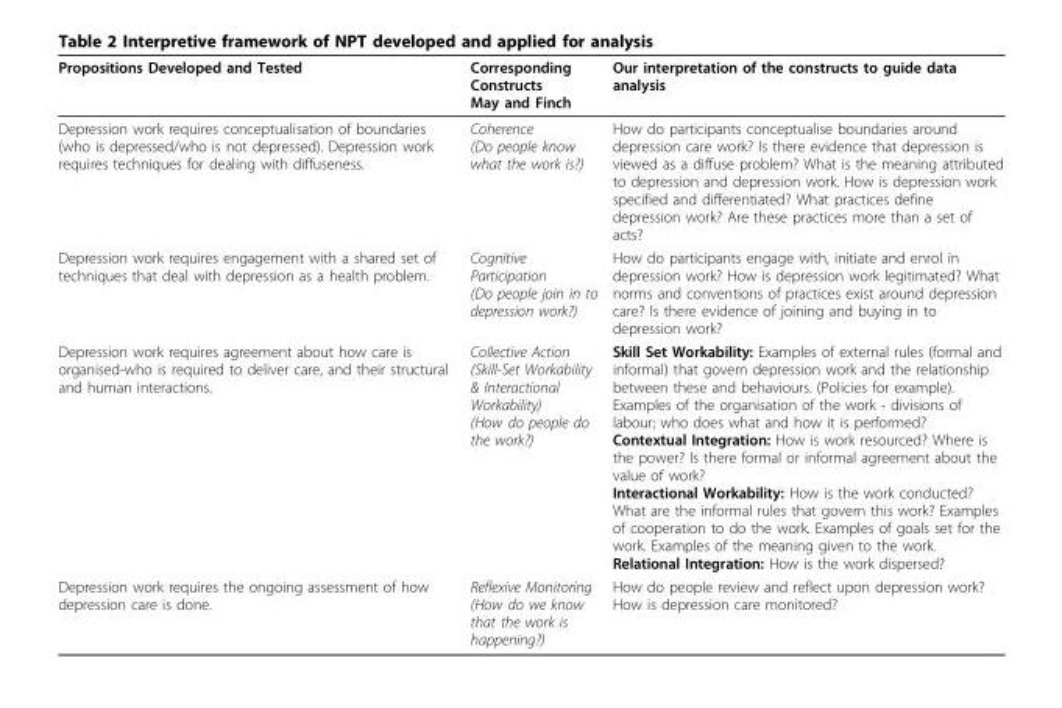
<table><thead><tr><td>Propositions Developed and Tested</td><td>Corresponding Constructs May and Finch</td><td>Our interpretation of the constructs to guide data analysis</td></tr></thead><tbody><tr><td>Depression work requires conceptualisation of boundaries (who is depressed/who is not depressed). Depression work requires techniques for dealing with diffuseness.</td><td>Coherence (Do people know what the work is?)</td><td>How do participants conceptualise boundaries around depression care work? Is there evidence that depression is viewed as a diffuse problem? What is the meaning attributed to depression and depression work. How is depression work specified and differentiated? What practices define depression work? Are these practices more than a set of acts?</td></tr><tr><td>Depression work requires engagement with a shared set of techniques that deal with depression as a health problem.</td><td>Cognitive Participation (Do people join in to depression work?)</td><td>How do participants engage with, initiate and enrol in depression work? How is depression work legitimated? What norms and conventions of practices exist around depression care? Is there evidence of joining and buying in to depression work?</td></tr><tr><td>Depression work requires agreement about how care is organised-who is required to deliver care, and their structural and human interactions.</td><td>Collective Action (Skill-Set Workability &amp; Interactional Workability) (How do people do the work?)</td><td>Skill Set Workability: Examples of external rules (formal and informal) that govern depression work and the relationship between these and behaviours. (Policies for example). Examples of the organisation of the work - divisions of labour; who does what and how it is performed? Contextual Integration: How is work resourced? Where is the power? Is there formal or informal agreement about the value of work? Interactional Workability: How is the work conducted? What are the informal rules that govern this work? Examples of cooperation to do the work. Examples of goals set for the work. Examples of the meaning given to the work. Relational Integration: How is the work dispersed?</td></tr><tr><td>Depression work requires the ongoing assessment of how depression care is done.</td><td>Reflexive Monitoring (How do we know that the work is happening?)</td><td>How do people review and reflect upon depression work? How is depression care monitored?</td></tr></tbody></table>